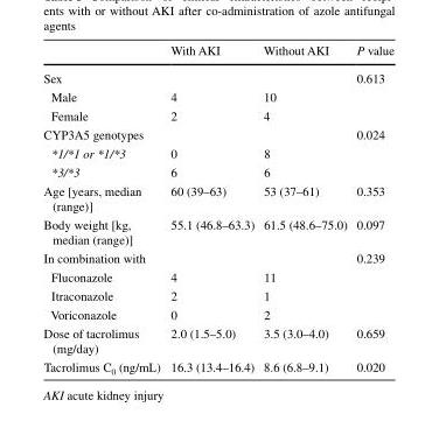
<table><thead><tr><td></td><td>With AKI</td><td>Without AKI</td><td>P value</td></tr></thead><tbody><tr><td>Sex</td><td></td><td></td><td>0.613</td></tr><tr><td>Male</td><td>4</td><td>10</td><td></td></tr><tr><td>Female</td><td>2</td><td>4</td><td></td></tr><tr><td>CYP3A5 genotypes</td><td></td><td></td><td>0.024</td></tr><tr><td>*1/*1 or *1/*3</td><td>0</td><td>8</td><td></td></tr><tr><td>*3/*3</td><td>6</td><td>6</td><td></td></tr><tr><td>Age [years, median (range)]</td><td>60 (39–63)</td><td>53 (37–61)</td><td>0.353</td></tr><tr><td>Body weight [kg, median (range)]</td><td>55.1 (46.8–63.3)</td><td>61.5 (48.6–75.0)</td><td>0.097</td></tr><tr><td>In combination with</td><td></td><td></td><td>0.239</td></tr><tr><td>Fluconazole</td><td>4</td><td>11</td><td></td></tr><tr><td>Itraconazole</td><td>2</td><td>1</td><td></td></tr><tr><td>Voriconazole</td><td>0</td><td>2</td><td></td></tr><tr><td>Dose of tacrolimus (mg/day)</td><td>2.0 (1.5–5.0)</td><td>3.5 (3.0–4.0)</td><td>0.659</td></tr><tr><td>Tacrolimus C<sub>0</sub> (ng/mL)</td><td>16.3 (13.4–16.4)</td><td>8.6 (6.8–9.1)</td><td>0.020</td></tr></tbody></table>